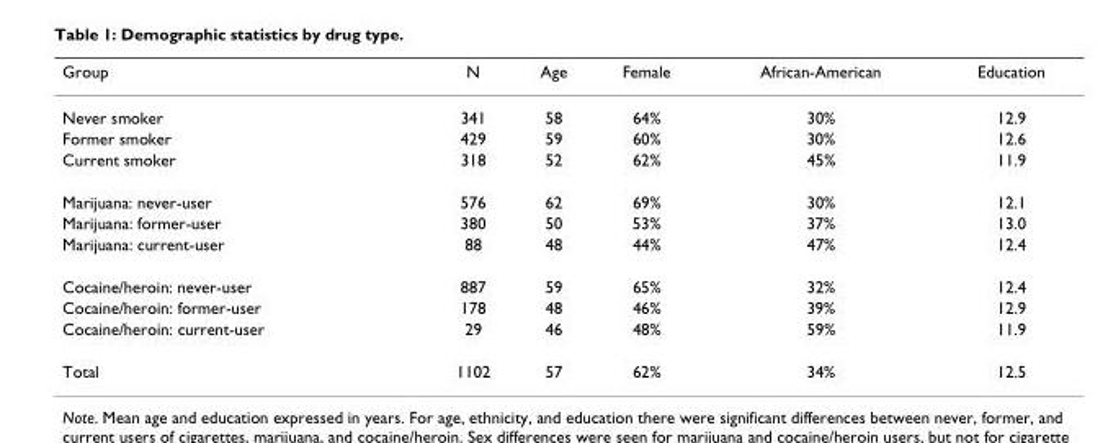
<table><thead><tr><td>Group</td><td>N</td><td>Age</td><td>Female</td><td>African-American</td><td>Education</td></tr></thead><tbody><tr><td>Never smoker</td><td>341</td><td>58</td><td>64%</td><td>30%</td><td>12.9</td></tr><tr><td>Former smoker</td><td>429</td><td>59</td><td>60%</td><td>30%</td><td>12.6</td></tr><tr><td>Current smoker</td><td>318</td><td>52</td><td>62%</td><td>45%</td><td>11.9</td></tr><tr><td>Marijuana: never-user</td><td>576</td><td>62</td><td>69%</td><td>30%</td><td>12.1</td></tr><tr><td>Marijuana: former-user</td><td>380</td><td>50</td><td>53%</td><td>37%</td><td>13.0</td></tr><tr><td>Marijuana: current-user</td><td>88</td><td>48</td><td>44%</td><td>47%</td><td>12.4</td></tr><tr><td>Cocaine/heroin: never-user</td><td>887</td><td>59</td><td>65%</td><td>32%</td><td>12.4</td></tr><tr><td>Cocaine/heroin: former-user</td><td>178</td><td>48</td><td>46%</td><td>39%</td><td>12.9</td></tr><tr><td>Cocaine/heroin: current-user</td><td>29</td><td>46</td><td>48%</td><td>59%</td><td>11.9</td></tr><tr><td>Total</td><td>1102</td><td>57</td><td>62%</td><td>34%</td><td>12.5</td></tr></tbody></table>